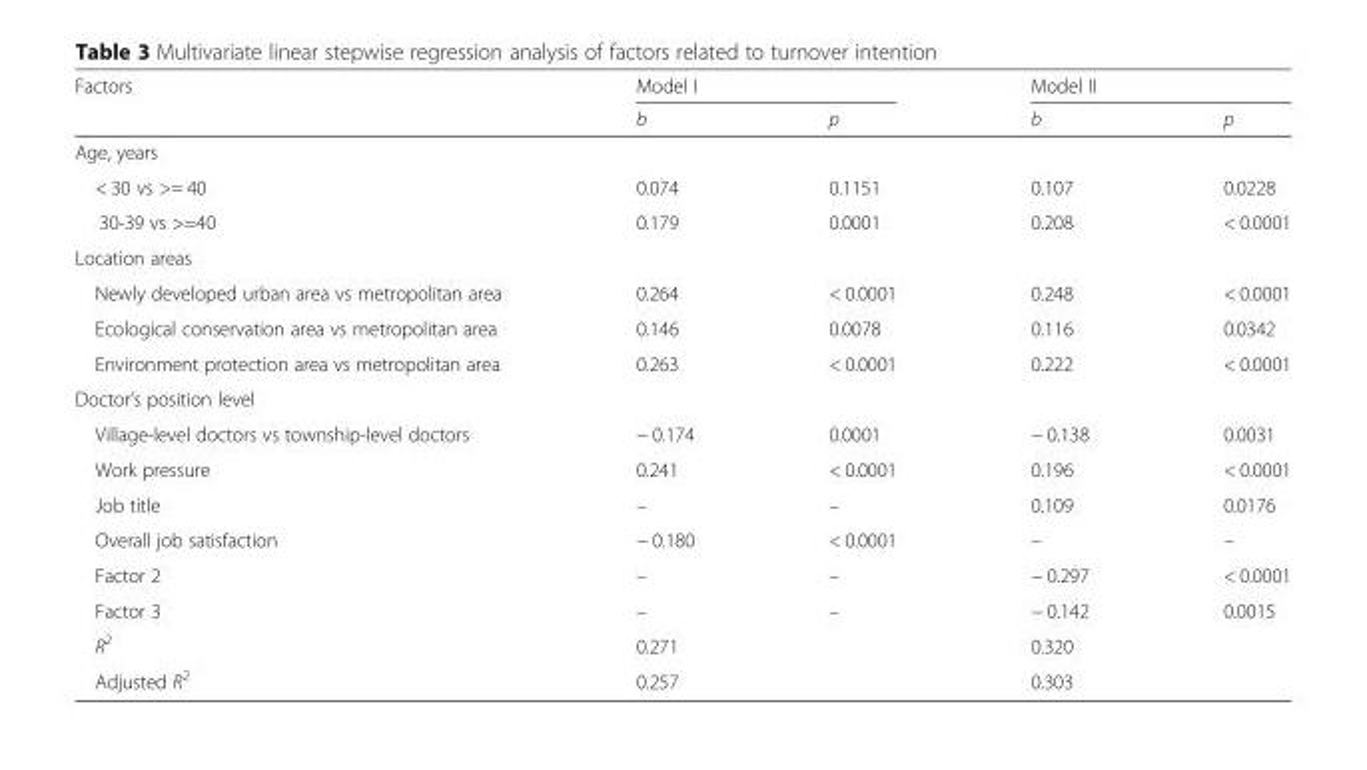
<table><thead><tr><td rowspan="2">Factors</td><td colspan="2">Model I</td><td colspan="2">Model II</td></tr><tr><td>b</td><td>p</td><td>b</td><td>p</td></tr></thead><tbody><tr><td colspan="5">Age, years</td></tr><tr><td>&lt; 30 vs &gt;= 40</td><td>0.074</td><td>0.1151</td><td>0.107</td><td>0.0228</td></tr><tr><td>30-39 vs &gt;=40</td><td>0.179</td><td>0.0001</td><td>0.208</td><td>&lt; 0.0001</td></tr><tr><td colspan="5">Location areas</td></tr><tr><td>Newly developed urban area vs metropolitan area</td><td>0.264</td><td>&lt; 0.0001</td><td>0.248</td><td>&lt; 0.0001</td></tr><tr><td>Ecological conservation area vs metropolitan area</td><td>0.146</td><td>0.0078</td><td>0.116</td><td>0.0342</td></tr><tr><td>Environment protection area vs metropolitan area</td><td>0.263</td><td>&lt; 0.0001</td><td>0.222</td><td>&lt; 0.0001</td></tr><tr><td colspan="5">Doctor’s position level</td></tr><tr><td>Village-level doctors vs township-level doctors</td><td>− 0.174</td><td>0.0001</td><td>− 0.138</td><td>0.0031</td></tr><tr><td>Work pressure</td><td>0.241</td><td>&lt; 0.0001</td><td>0.196</td><td>&lt; 0.0001</td></tr><tr><td>Job title</td><td>–</td><td>–</td><td>0.109</td><td>0.0176</td></tr><tr><td>Overall job satisfaction</td><td>− 0.180</td><td>&lt; 0.0001</td><td>–</td><td>–</td></tr><tr><td>Factor 2</td><td>–</td><td>–</td><td>− 0.297</td><td>&lt; 0.0001</td></tr><tr><td>Factor 3</td><td>–</td><td>–</td><td>− 0.142</td><td>0.0015</td></tr><tr><td>R<sup>2</sup></td><td>0.271</td><td></td><td>0.320</td><td></td></tr><tr><td>Adjusted R<sup>2</sup></td><td>0.257</td><td></td><td>0.303</td><td></td></tr></tbody></table>